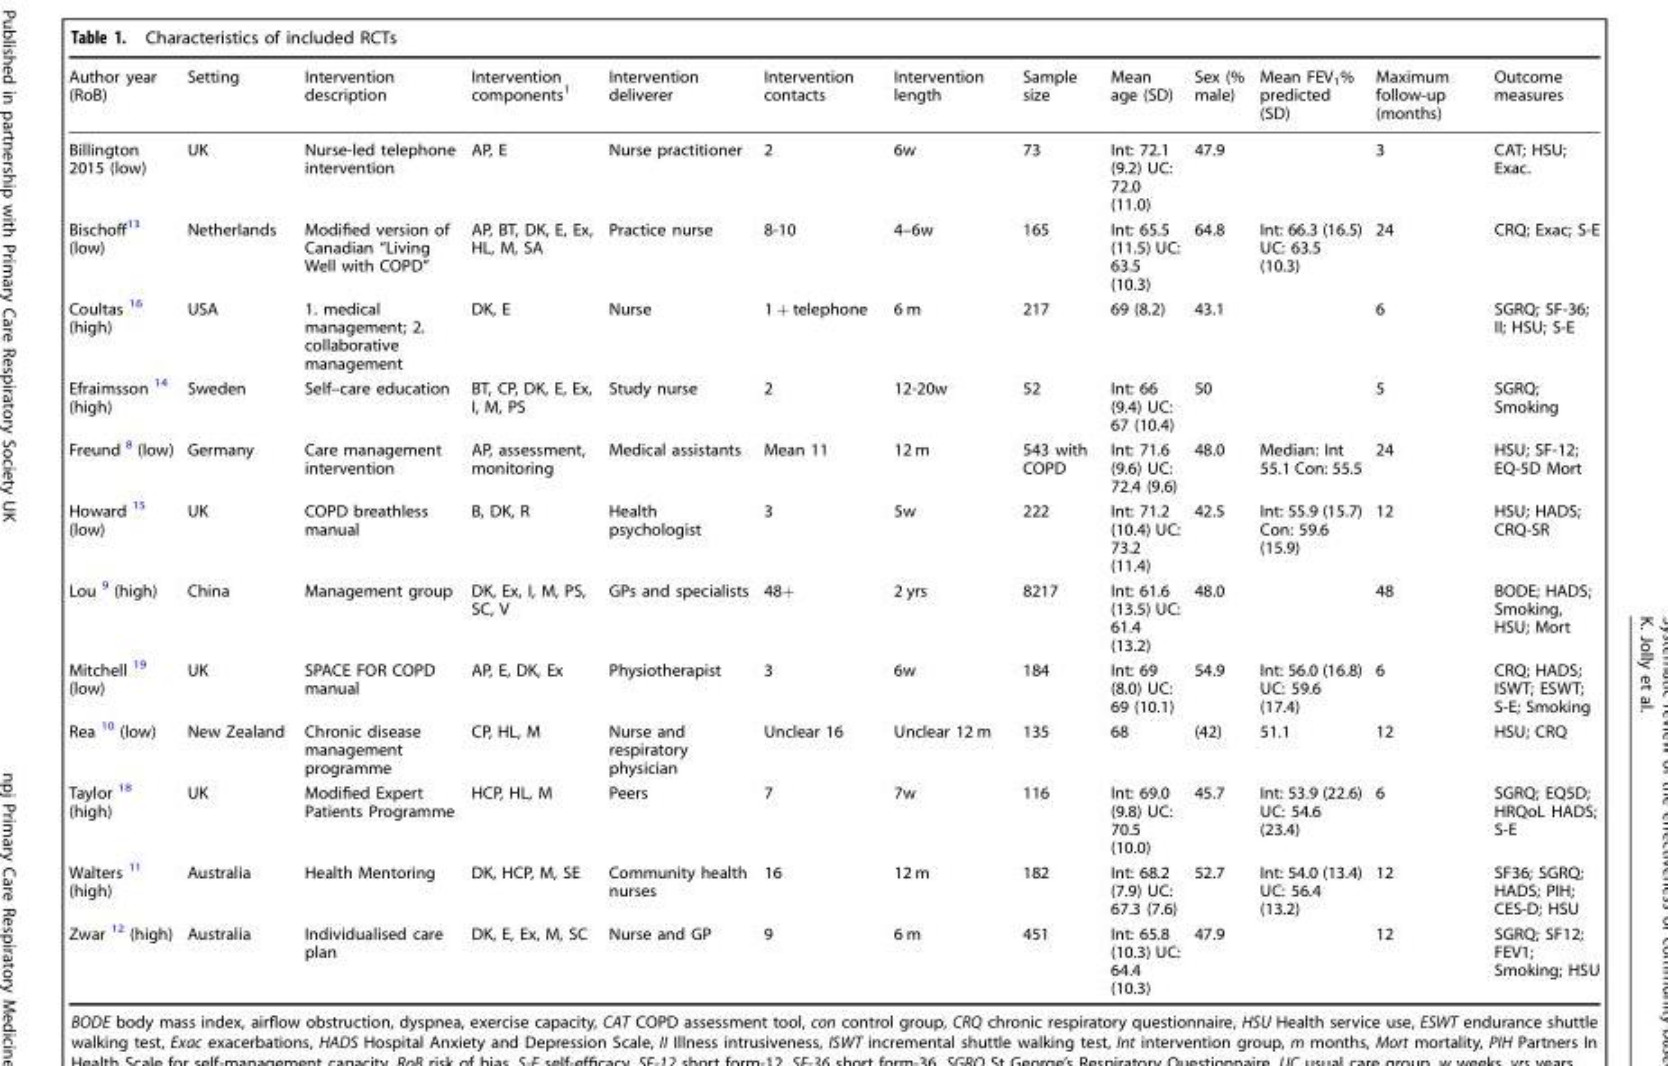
<table><thead><tr><td>Author year (RoB)</td><td>Setting</td><td>Intervention description</td><td>Intervention components<sup>1</sup></td><td>Intervention deliverer</td><td>Intervention contacts</td><td>Intervention length</td><td>Sample size</td><td>Mean age (SD)</td><td>Sex (% male)</td><td>Mean FEV<sub>1</sub>% predicted (SD)</td><td>Maximum follow-up (months)</td><td>Outcome measures</td></tr></thead><tbody><tr><td>Billington 2015 (low)</td><td>UK</td><td>Nurse-led telephone intervention</td><td>AP, E</td><td>Nurse practitioner</td><td>2</td><td>6w</td><td>73</td><td>Int: 72.1 (9.2) UC: 72.0 (11.0)</td><td>47.9</td><td></td><td>3</td><td>CAT; HSU; Exac.</td></tr><tr><td>Bischoff<sup>13</sup> (low)</td><td>Netherlands</td><td>Modified version of Canadian “Living Well with COPD”</td><td>AP, BT, DK, E, Ex, HL, M, SA</td><td>Practice nurse</td><td>8-10</td><td>4–6w</td><td>165</td><td>Int: 65.5 (11.5) UC: 63.5 (10.3)</td><td>64.8</td><td>Int: 66.3 (16.5) UC: 63.5 (10.3)</td><td>24</td><td>CRQ; Exac; S-E</td></tr><tr><td>Coultas <sup>16</sup> (high)</td><td>USA</td><td>1. medical management; 2. collaborative management</td><td>DK, E</td><td>Nurse</td><td>1 + telephone</td><td>6 m</td><td>217</td><td>69 (8.2)</td><td>43.1</td><td></td><td>6</td><td>SGRQ; SF-36; II; HSU; S-E</td></tr><tr><td>Efraimsson <sup>14</sup> (high)</td><td>Sweden</td><td>Self–care education</td><td>BT, CP, DK, E, Ex, I, M, PS</td><td>Study nurse</td><td>2</td><td>12-20w</td><td>52</td><td>Int: 66 (9.4) UC: 67 (10.4)</td><td>50</td><td></td><td>5</td><td>SGRQ; Smoking</td></tr><tr><td>Freund <sup>8</sup> (low)</td><td>Germany</td><td>Care management intervention</td><td>AP, assessment, monitoring</td><td>Medical assistants</td><td>Mean 11</td><td>12 m</td><td>543 with COPD</td><td>Int: 71.6 (9.6) UC: 72.4 (9.6)</td><td>48.0</td><td>Median: Int 55.1 Con: 55.5</td><td>24</td><td>HSU; SF-12; EQ-5D Mort</td></tr><tr><td>Howard <sup>15</sup> (low)</td><td>UK</td><td>COPD breathless manual</td><td>B, DK, R</td><td>Health psychologist</td><td>3</td><td>5w</td><td>222</td><td>Int: 71.2 (10.4) UC: 73.2 (11.4)</td><td>42.5</td><td>Int: 55.9 (15.7) Con: 59.6 (15.9)</td><td>12</td><td>HSU; HADS; CRQ-SR</td></tr><tr><td>Lou <sup>9</sup> (high)</td><td>China</td><td>Management group</td><td>DK, Ex, I, M, PS, SC, V</td><td>GPs and specialists</td><td>48+</td><td>2 yrs</td><td>8217</td><td>Int: 61.6 (13.5) UC: 61.4 (13.2)</td><td>48.0</td><td></td><td>48</td><td>BODE; HADS; Smoking, HSU; Mort</td></tr><tr><td>Mitchell <sup>19</sup> (low)</td><td>UK</td><td>SPACE FOR COPD manual</td><td>AP, E, DK, Ex</td><td>Physiotherapist</td><td>3</td><td>6w</td><td>184</td><td>Int: 69 (8.0) UC: 69 (10.1)</td><td>54.9</td><td>Int: 56.0 (16.8) UC: 59.6 (17.4)</td><td>6</td><td>CRQ; HADS; ISWT; ESWT; S-E; Smoking</td></tr><tr><td>Rea <sup>10</sup> (low)</td><td>New Zealand</td><td>Chronic disease management programme</td><td>CP, HL, M</td><td>Nurse and respiratory physician</td><td>Unclear 16</td><td>Unclear 12 m</td><td>135</td><td>68</td><td>(42)</td><td>51.1</td><td>12</td><td>HSU; CRQ</td></tr><tr><td>Taylor <sup>18</sup> (high)</td><td>UK</td><td>Modified Expert Patients Programme</td><td>HCP, HL, M</td><td>Peers</td><td>7</td><td>7w</td><td>116</td><td>Int: 69.0 (9.8) UC: 70.5 (10.0)</td><td>45.7</td><td>Int: 53.9 (22.6) UC: 54.6 (23.4)</td><td>6</td><td>SGRQ; EQ5D; HRQoL HADS; S-E</td></tr><tr><td>Walters <sup>11</sup> (high)</td><td>Australia</td><td>Health Mentoring</td><td>DK, HCP, M, SE</td><td>Community health nurses</td><td>16</td><td>12 m</td><td>182</td><td>Int: 68.2 (7.9) UC: 67.3 (7.6)</td><td>52.7</td><td>Int: 54.0 (13.4) UC: 56.4 (13.2)</td><td>12</td><td>SF36; SGRQ; HADS; PIH; CES-D; HSU</td></tr><tr><td>Zwar <sup>12</sup> (high)</td><td>Australia</td><td>Individualised care plan</td><td>DK, E, Ex, M, SC</td><td>Nurse and GP</td><td>9</td><td>6 m</td><td>451</td><td>Int: 65.8 (10.3) UC: 64.4 (10.3)</td><td>47.9</td><td></td><td>12</td><td>SGRQ; SF12; FEV1; Smoking; HSU</td></tr></tbody></table>